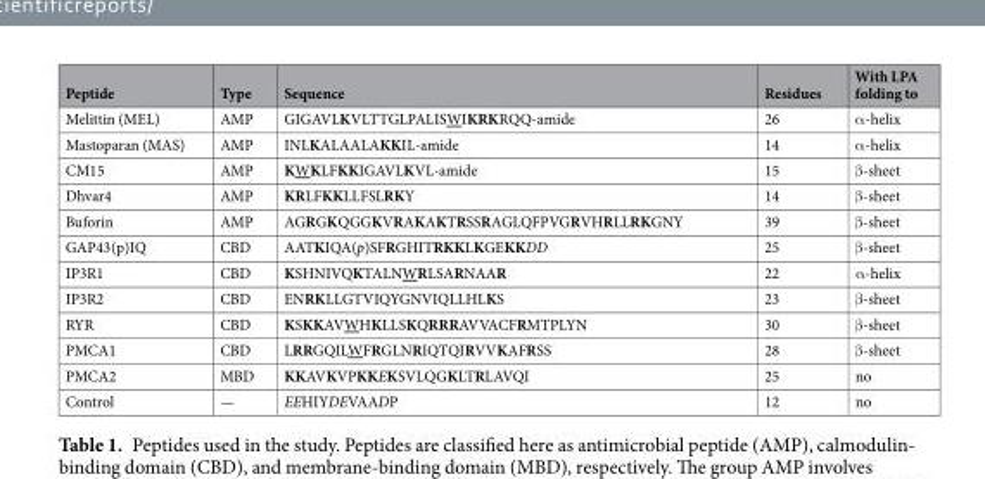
<table><thead><tr><td>Peptide</td><td>Type</td><td>Sequence</td><td>Residues</td><td>With LPA folding to</td></tr></thead><tbody><tr><td>Melittin (MEL)</td><td>AMP</td><td>GIGAVLKVLTTGLPALISWIKRKRQQ-amide</td><td>26</td><td>α-helix</td></tr><tr><td>Mastoparan (MAS)</td><td>AMP</td><td>INLKALAALAKKIL-amide</td><td>14</td><td>α-helix</td></tr><tr><td>CM15</td><td>AMP</td><td>KWKLFKKIGAVLKVL-amide</td><td>15</td><td>β-sheet</td></tr><tr><td>Dhvar4</td><td>AMP</td><td>KRLFKKLLFSLRKY</td><td>14</td><td>β-sheet</td></tr><tr><td>Buforin</td><td>AMP</td><td>AGRGKQGGKVRAKAKTRSSRAGLQFPVGRVHRLLRKGNY</td><td>39</td><td>β-sheet</td></tr><tr><td>GAP43(p)IQ</td><td>CBD</td><td>AATKIQA(p)SFRGHITRKKLKGEKKDD</td><td>25</td><td>β-sheet</td></tr><tr><td>IP3R1</td><td>CBD</td><td>KSHNIVQKTALNWRLSARNAAR</td><td>22</td><td>α-helix</td></tr><tr><td>IP3R2</td><td>CBD</td><td>ENRKLLGTVIQYGNVIQLLHLKS</td><td>23</td><td>β-sheet</td></tr><tr><td>RYR</td><td>CBD</td><td>KSKKAVWHKLLSKQRRRAVVACFRMTPLYN</td><td>30</td><td>β-sheet</td></tr><tr><td>PMCA1</td><td>CBD</td><td>LRRGQILWFRGLNRIQTQIRVVKAFRSS</td><td>28</td><td>β-sheet</td></tr><tr><td>PMCA2</td><td>MBD</td><td>KKAVKVPKKEKSVLQGKLTRLAVQI</td><td>25</td><td>no</td></tr><tr><td>Control</td><td>—</td><td>EEHIYDEVAADP</td><td>12</td><td>no</td></tr></tbody></table>